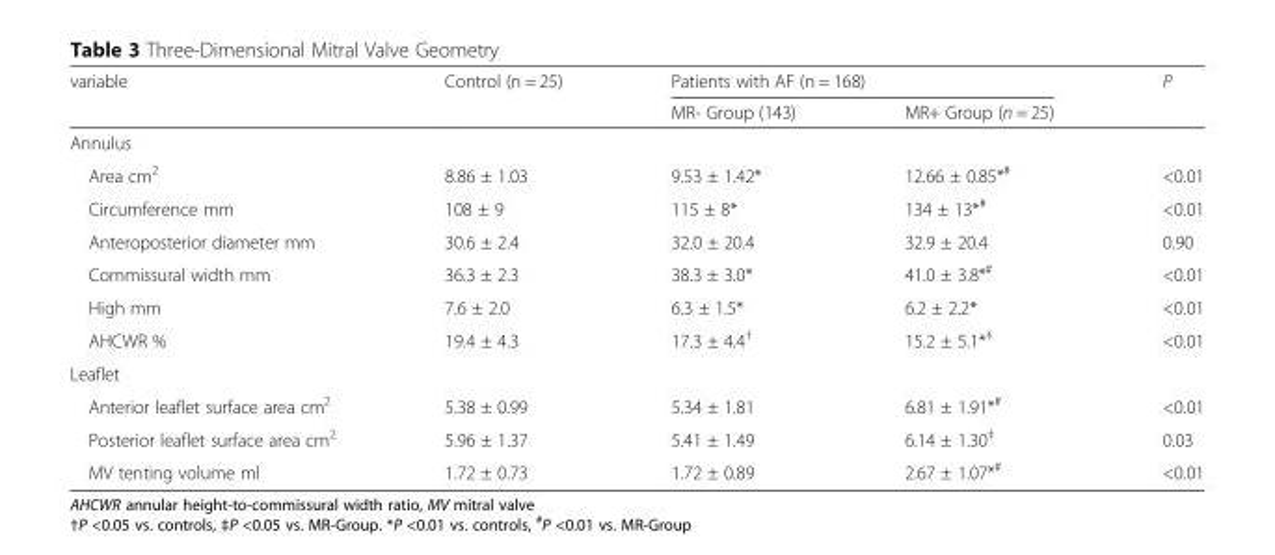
<table><thead><tr><td rowspan="2">variable</td><td rowspan="2">Control (n = 25)</td><td colspan="2">Patients with AF (n = 168)</td><td rowspan="2">P</td></tr><tr><td>MR- Group (143)</td><td>MR+ Group (n = 25)</td></tr></thead><tbody><tr><td colspan="5">Annulus</td></tr><tr><td>Area cm<sup>2</sup></td><td>8.86 ± 1.03</td><td>9.53 ± 1.42*</td><td>12.66 ± 0.85*<sup>#</sup></td><td>&lt;0.01</td></tr><tr><td>Circumference mm</td><td>108 ± 9</td><td>115 ± 8*</td><td>134 ± 13*<sup>#</sup></td><td>&lt;0.01</td></tr><tr><td>Anteroposterior diameter mm</td><td>30.6 ± 2.4</td><td>32.0 ± 20.4</td><td>32.9 ± 20.4</td><td>0.90</td></tr><tr><td>Commissural width mm</td><td>36.3 ± 2.3</td><td>38.3 ± 3.0*</td><td>41.0 ± 3.8*<sup>#</sup></td><td>&lt;0.01</td></tr><tr><td>High mm</td><td>7.6 ± 2.0</td><td>6.3 ± 1.5*</td><td>6.2 ± 2.2*</td><td>&lt;0.01</td></tr><tr><td>AHCWR %</td><td>19.4 ± 4.3</td><td>17.3 ± 4.4<sup>†</sup></td><td>15.2 ± 5.1*<sup>‡</sup></td><td>&lt;0.01</td></tr><tr><td colspan="5">Leaflet</td></tr><tr><td>Anterior leaflet surface area cm<sup>2</sup></td><td>5.38 ± 0.99</td><td>5.34 ± 1.81</td><td>6.81 ± 1.91*<sup>#</sup></td><td>&lt;0.01</td></tr><tr><td>Posterior leaflet surface area cm<sup>2</sup></td><td>5.96 ± 1.37</td><td>5.41 ± 1.49</td><td>6.14 ± 1.30<sup>‡</sup></td><td>0.03</td></tr><tr><td>MV tenting volume ml</td><td>1.72 ± 0.73</td><td>1.72 ± 0.89</td><td>2.67 ± 1.07*<sup>#</sup></td><td>&lt;0.01</td></tr></tbody></table>